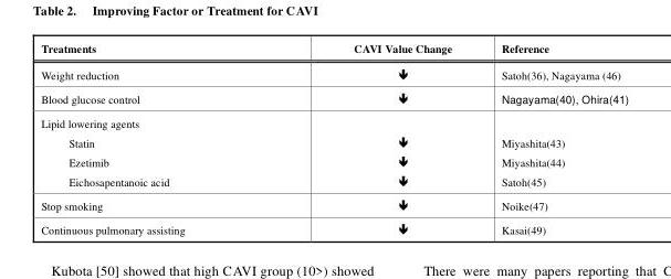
<table><thead><tr><td>Treatments</td><td>CAVI Value Change</td><td>Reference</td></tr></thead><tbody><tr><td>Weight reduction</td><td>�</td><td>Satoh(36), Nagayama (46)</td></tr><tr><td>Blood glucose control</td><td>�</td><td>Nagayama(40), Ohira(41)</td></tr><tr><td colspan="3">Lipid lowering agents</td></tr><tr><td>Statin</td><td>�</td><td>Miyashita(43)</td></tr><tr><td>Ezetimib</td><td>�</td><td>Miyashita(44)</td></tr><tr><td>Eichosapentanoic acid</td><td>�</td><td>Satoh(45)</td></tr><tr><td>Stop smoking</td><td>�</td><td>Noike(47)</td></tr><tr><td>Continuous pulmonary assisting</td><td>�</td><td>Kasai(49)</td></tr></tbody></table>